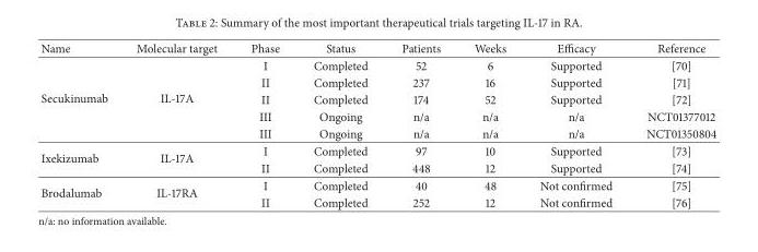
<table><thead><tr><td>Name</td><td>Molecular target</td><td>Phase</td><td>Status</td><td>Patients</td><td>Weeks</td><td>Efficacy</td><td>Reference</td></tr></thead><tbody><tr><td rowspan="5">Secukinumab</td><td rowspan="5">IL-17A</td><td>I</td><td>Completed</td><td>52</td><td>6</td><td>Supported</td><td>[70]</td></tr><tr><td>II</td><td>Completed</td><td>237</td><td>16</td><td>Supported</td><td>[71]</td></tr><tr><td>II</td><td>Completed</td><td>174</td><td>52</td><td>Supported</td><td>[72]</td></tr><tr><td>III</td><td>Ongoing</td><td>n/a</td><td>n/a</td><td>n/a</td><td>NCT01377012</td></tr><tr><td>III</td><td>Ongoing</td><td>n/a</td><td>n/a</td><td>n/a</td><td>NCT01350804</td></tr><tr><td rowspan="2">Ixekizumab</td><td rowspan="2">IL-17A</td><td>I</td><td>Completed</td><td>97</td><td>10</td><td>Supported</td><td>[73]</td></tr><tr><td>II</td><td>Completed</td><td>448</td><td>12</td><td>Supported</td><td>[74]</td></tr><tr><td rowspan="2">Brodalumab</td><td rowspan="2">IL-17RA</td><td>I</td><td>Completed</td><td>40</td><td>48</td><td>Not confirmed</td><td>[75]</td></tr><tr><td>II</td><td>Completed</td><td>252</td><td>12</td><td>Not confirmed</td><td>[76]</td></tr></tbody></table>